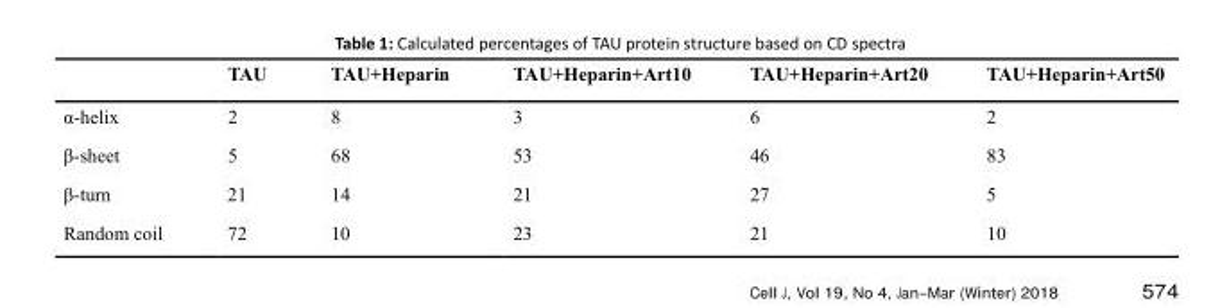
<table><thead><tr><td></td><td>TAU</td><td>TAU+Heparin</td><td>TAU+Heparin+Art10</td><td>TAU+Heparin+Art20</td><td>TAU+Heparin+Art50</td></tr></thead><tbody><tr><td>α-helix</td><td>2</td><td>8</td><td>3</td><td>6</td><td>2</td></tr><tr><td>β-sheet</td><td>5</td><td>68</td><td>53</td><td>46</td><td>83</td></tr><tr><td>β-turn</td><td>21</td><td>14</td><td>21</td><td>27</td><td>5</td></tr><tr><td>Random coil</td><td>72</td><td>10</td><td>23</td><td>21</td><td>10</td></tr></tbody></table>